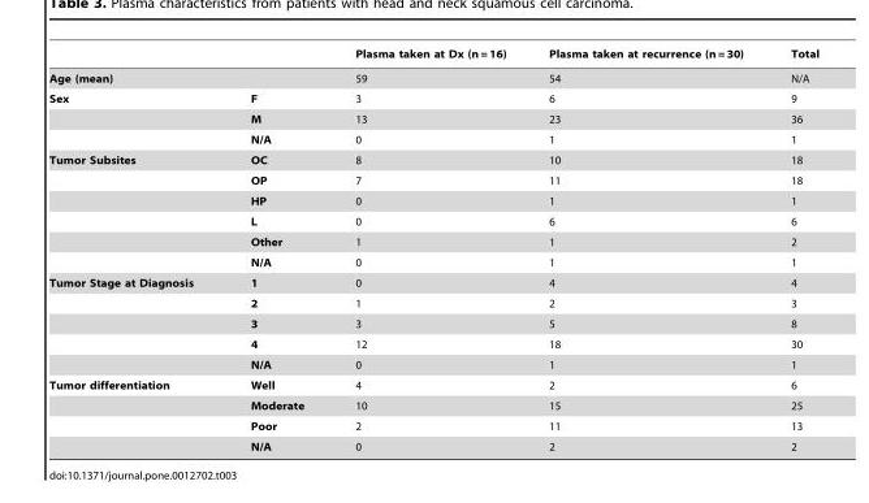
<table><thead><tr><td></td><td></td><td>Plasma taken at Dx (n = 16)</td><td>Plasma taken at recurrence (n = 30)</td><td>Total</td></tr></thead><tbody><tr><td>Age (mean)</td><td></td><td>59</td><td>54</td><td>N/A</td></tr><tr><td rowspan="3">Sex</td><td>F</td><td>3</td><td>6</td><td>9</td></tr><tr><td>M</td><td>13</td><td>23</td><td>36</td></tr><tr><td>N/A</td><td>0</td><td>1</td><td>1</td></tr><tr><td rowspan="6">Tumor Subsites</td><td>OC</td><td>8</td><td>10</td><td>18</td></tr><tr><td>OP</td><td>7</td><td>11</td><td>18</td></tr><tr><td>HP</td><td>0</td><td>1</td><td>1</td></tr><tr><td>L</td><td>0</td><td>6</td><td>6</td></tr><tr><td>Other</td><td>1</td><td>1</td><td>2</td></tr><tr><td>N/A</td><td>0</td><td>1</td><td>1</td></tr><tr><td rowspan="5">Tumor Stage at Diagnosis</td><td>1</td><td>0</td><td>4</td><td>4</td></tr><tr><td>2</td><td>1</td><td>2</td><td>3</td></tr><tr><td>3</td><td>3</td><td>5</td><td>8</td></tr><tr><td>4</td><td>12</td><td>18</td><td>30</td></tr><tr><td>N/A</td><td>0</td><td>1</td><td>1</td></tr><tr><td rowspan="4">Tumor differentiation</td><td>Well</td><td>4</td><td>2</td><td>6</td></tr><tr><td>Moderate</td><td>10</td><td>15</td><td>25</td></tr><tr><td>Poor</td><td>2</td><td>11</td><td>13</td></tr><tr><td>N/A</td><td>0</td><td>2</td><td>2</td></tr></tbody></table>